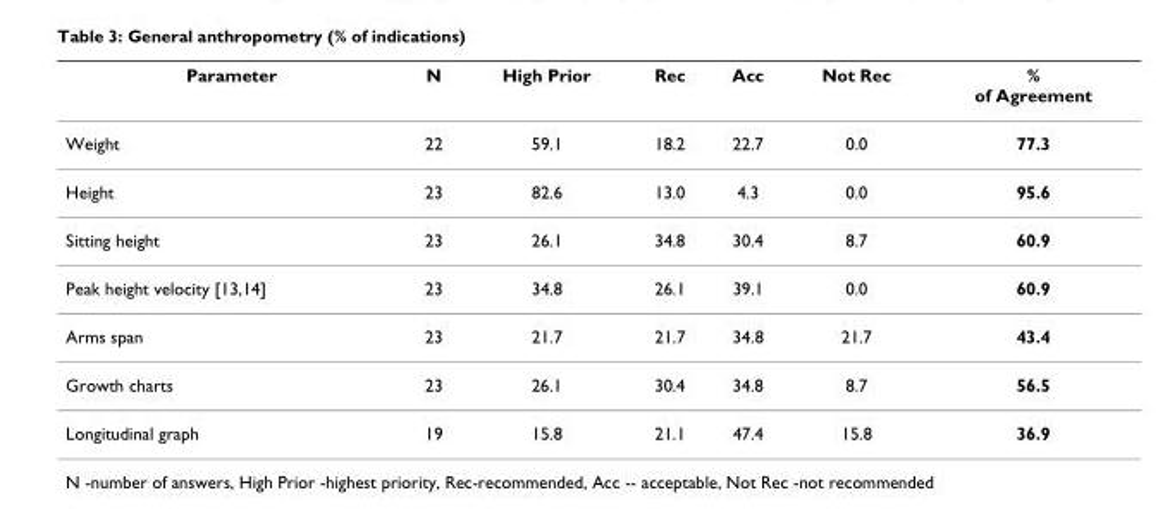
<table><thead><tr><td>Parameter</td><td>N</td><td>High Prior</td><td>Rec</td><td>Acc</td><td>Not Rec</td><td>% of Agreement</td></tr></thead><tbody><tr><td>Weight</td><td>22</td><td>59.1</td><td>18.2</td><td>22.7</td><td>0.0</td><td>77.3</td></tr><tr><td>Height</td><td>23</td><td>82.6</td><td>13.0</td><td>4.3</td><td>0.0</td><td>95.6</td></tr><tr><td>Sitting height</td><td>23</td><td>26.1</td><td>34.8</td><td>30.4</td><td>8.7</td><td>60.9</td></tr><tr><td>Peak height velocity [13,14]</td><td>23</td><td>34.8</td><td>26.1</td><td>39.1</td><td>0.0</td><td>60.9</td></tr><tr><td>Arms span</td><td>23</td><td>21.7</td><td>21.7</td><td>34.8</td><td>21.7</td><td>43.4</td></tr><tr><td>Growth charts</td><td>23</td><td>26.1</td><td>30.4</td><td>34.8</td><td>8.7</td><td>56.5</td></tr><tr><td>Longitudinal graph</td><td>19</td><td>15.8</td><td>21.1</td><td>47.4</td><td>15.8</td><td>36.9</td></tr></tbody></table>